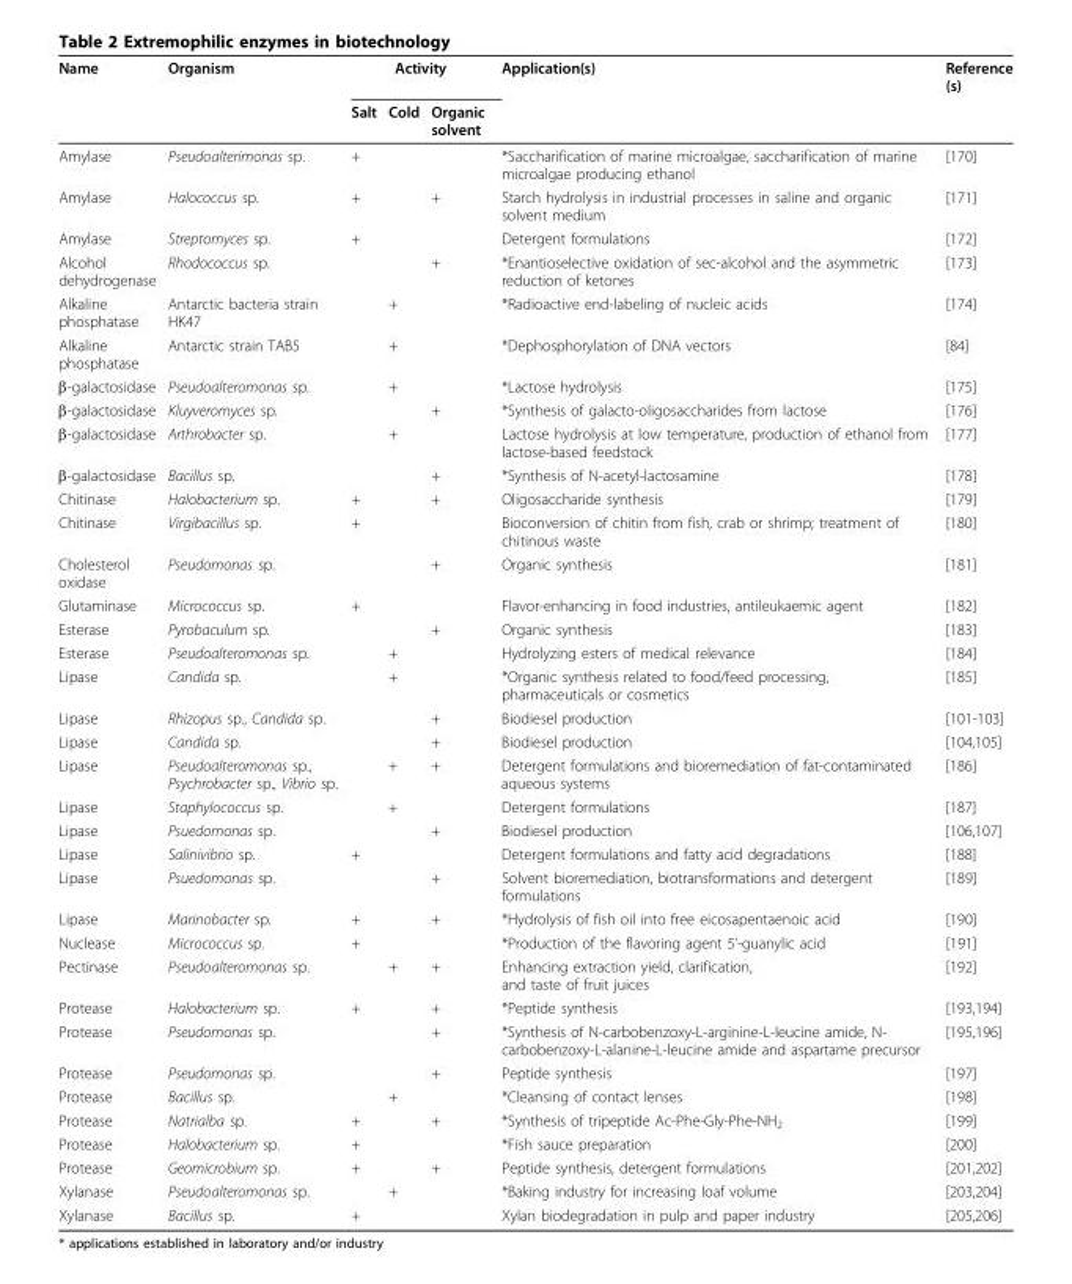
<table><thead><tr><td rowspan="2">Name</td><td rowspan="2">Organism</td><td colspan="3">Activity</td><td rowspan="2">Application(s)</td><td rowspan="2">Reference (s)</td></tr><tr><td>Salt</td><td>Cold</td><td>Organic solvent</td></tr></thead><tbody><tr><td>Amylase</td><td>Pseudoalterimonas sp.</td><td>+</td><td></td><td></td><td>*Saccharification of marine microalgae, saccharification of marine microalgae producing ethanol</td><td>[170]</td></tr><tr><td>Amylase</td><td>Halococcus sp.</td><td>+</td><td></td><td>+</td><td>Starch hydrolysis in industrial processes in saline and organic solvent medium</td><td>[171]</td></tr><tr><td>Amylase</td><td>Streptomyces sp.</td><td>+</td><td></td><td></td><td>Detergent formulations</td><td>[172]</td></tr><tr><td>Alcohol dehydrogenase</td><td>Rhodococcus sp.</td><td></td><td></td><td>+</td><td>*Enantioselective oxidation of sec-alcohol and the asymmetric reduction of ketones</td><td>[173]</td></tr><tr><td>Alkaline phosphatase</td><td>Antarctic bacteria strain HK47</td><td></td><td>+</td><td></td><td>*Radioactive end-labeling of nucleic acids</td><td>[174]</td></tr><tr><td>Alkaline phosphatase</td><td>Antarctic strain TAB5</td><td></td><td>+</td><td></td><td>*Dephosphorylation of DNA vectors</td><td>[84]</td></tr><tr><td>β-galactosidase</td><td>Pseudoalteromonas sp.</td><td></td><td>+</td><td></td><td>*Lactose hydrolysis</td><td>[175]</td></tr><tr><td>β-galactosidase</td><td>Kluyveromyces sp.</td><td></td><td></td><td>+</td><td>*Synthesis of galacto-oligosaccharides from lactose</td><td>[176]</td></tr><tr><td>β-galactosidase</td><td>Arthrobacter sp.</td><td></td><td>+</td><td></td><td>Lactose hydrolysis at low temperature, production of ethanol from lactose-based feedstock</td><td>[177]</td></tr><tr><td>β-galactosidase</td><td>Bacillus sp.</td><td></td><td></td><td>+</td><td>*Synthesis of N-acetyl-lactosamine</td><td>[178]</td></tr><tr><td>Chitinase</td><td>Halobacterium sp.</td><td>+</td><td></td><td>+</td><td>Oligosaccharide synthesis</td><td>[179]</td></tr><tr><td>Chitinase</td><td>Virgibacillus sp.</td><td>+</td><td></td><td></td><td>Bioconversion of chitin from fish, crab or shrimp; treatment of chitinous waste</td><td>[180]</td></tr><tr><td>Cholesterol oxidase</td><td>Pseudomonas sp.</td><td></td><td></td><td>+</td><td>Organic synthesis</td><td>[181]</td></tr><tr><td>Glutaminase</td><td>Micrococcus sp.</td><td>+</td><td></td><td></td><td>Flavor-enhancing in food industries, antileukaemic agent</td><td>[182]</td></tr><tr><td>Esterase</td><td>Pyrobaculum sp.</td><td></td><td></td><td>+</td><td>Organic synthesis</td><td>[183]</td></tr><tr><td>Esterase</td><td>Pseudoalteromonas sp.</td><td></td><td>+</td><td></td><td>Hydrolyzing esters of medical relevance</td><td>[184]</td></tr><tr><td>Lipase</td><td>Candida sp.</td><td></td><td>+</td><td></td><td>*Organic synthesis related to food/feed processing, pharmaceuticals or cosmetics</td><td>[185]</td></tr><tr><td>Lipase</td><td>Rhizopus sp., Candida sp.</td><td></td><td></td><td>+</td><td>Biodiesel production</td><td>[101-103]</td></tr><tr><td>Lipase</td><td>Candida sp.</td><td></td><td></td><td>+</td><td>Biodiesel production</td><td>[104,105]</td></tr><tr><td>Lipase</td><td>Pseudoalteromonas sp., Psychrobacter sp., Vibrio sp.</td><td></td><td>+</td><td>+</td><td>Detergent formulations and bioremediation of fat-contaminated aqueous systems</td><td>[186]</td></tr><tr><td>Lipase</td><td>Staphylococcus sp.</td><td></td><td>+</td><td></td><td>Detergent formulations</td><td>[187]</td></tr><tr><td>Lipase</td><td>Psuedomonas sp.</td><td></td><td></td><td>+</td><td>Biodiesel production</td><td>[106,107]</td></tr><tr><td>Lipase</td><td>Salinivibrio sp.</td><td>+</td><td></td><td></td><td>Detergent formulations and fatty acid degradations</td><td>[188]</td></tr><tr><td>Lipase</td><td>Psuedomonas sp.</td><td></td><td></td><td>+</td><td>Solvent bioremediation, biotransformations and detergent formulations</td><td>[189]</td></tr><tr><td>Lipase</td><td>Marinobacter sp.</td><td>+</td><td></td><td>+</td><td>*Hydrolysis of fish oil into free eicosapentaenoic acid</td><td>[190]</td></tr><tr><td>Nuclease</td><td>Micrococcus sp.</td><td>+</td><td></td><td></td><td>*Production of the flavoring agent 5’-guanylic acid</td><td>[191]</td></tr><tr><td>Pectinase</td><td>Pseudoalteromonas sp.</td><td></td><td>+</td><td>+</td><td>Enhancing extraction yield, clarification, and taste of fruit juices</td><td>[192]</td></tr><tr><td>Protease</td><td>Halobacterium sp.</td><td>+</td><td></td><td>+</td><td>*Peptide synthesis</td><td>[193,194]</td></tr><tr><td>Protease</td><td>Pseudomonas sp.</td><td></td><td></td><td>+</td><td>*Synthesis of N-carbobenzoxy-L-arginine-L-leucine amide, N- carbobenzoxy-L-alanine-L-leucine amide and aspartame precursor</td><td>[195,196]</td></tr><tr><td>Protease</td><td>Pseudomonas sp.</td><td></td><td></td><td>+</td><td>Peptide synthesis</td><td>[197]</td></tr><tr><td>Protease</td><td>Bacillus sp.</td><td></td><td>+</td><td></td><td>*Cleansing of contact lenses</td><td>[198]</td></tr><tr><td>Protease</td><td>Natrialba sp.</td><td>+</td><td></td><td>+</td><td>*Synthesis of tripeptide Ac-Phe-Gly-Phe-NH<sub>2</sub></td><td>[199]</td></tr><tr><td>Protease</td><td>Halobacterium sp.</td><td>+</td><td></td><td></td><td>*Fish sauce preparation</td><td>[200]</td></tr><tr><td>Protease</td><td>Geomicrobium sp.</td><td>+</td><td></td><td>+</td><td>Peptide synthesis, detergent formulations</td><td>[201,202]</td></tr><tr><td>Xylanase</td><td>Pseudoalteromonas sp.</td><td></td><td>+</td><td></td><td>*Baking industry for increasing loaf volume</td><td>[203,204]</td></tr><tr><td>Xylanase</td><td>Bacillus sp.</td><td>+</td><td></td><td></td><td>Xylan biodegradation in pulp and paper industry</td><td>[205,206]</td></tr></tbody></table>